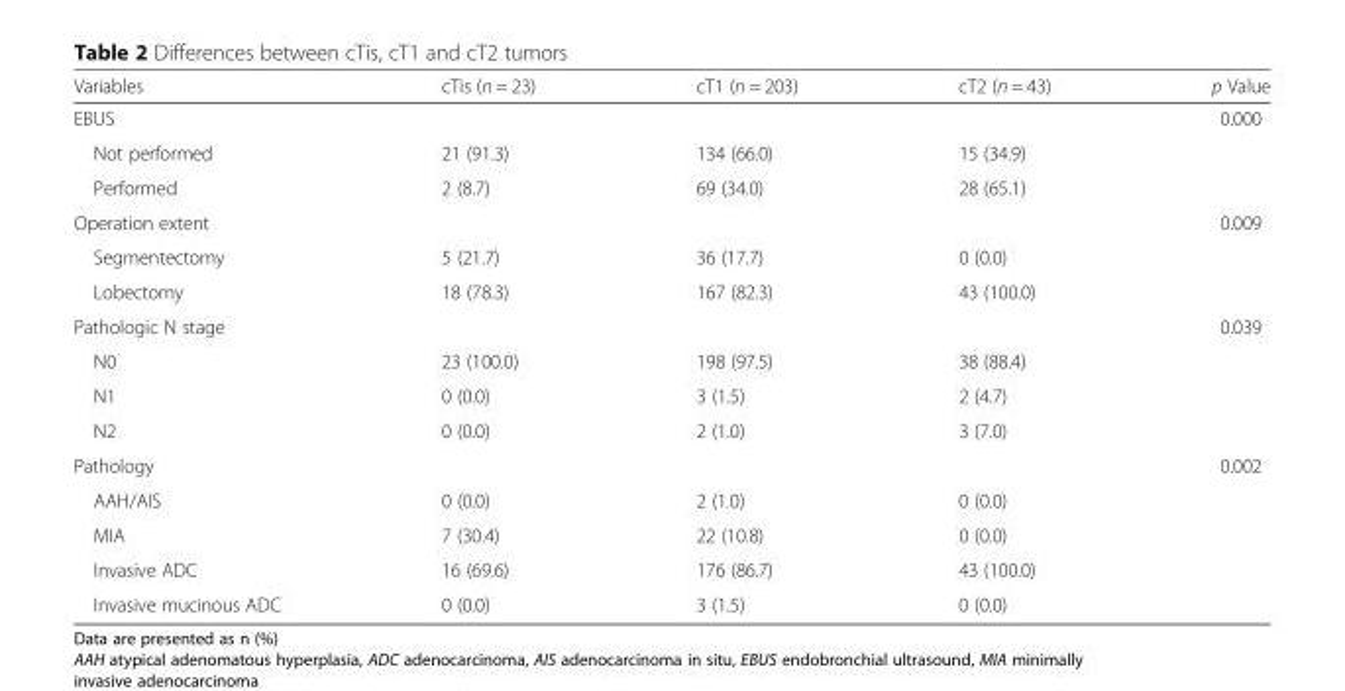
<table><thead><tr><td>Variables</td><td>cTis (n = 23)</td><td>cT1 (n = 203)</td><td>cT2 (n = 43)</td><td>p Value</td></tr></thead><tbody><tr><td>EBUS</td><td></td><td></td><td></td><td>0.000</td></tr><tr><td>Not performed</td><td>21 (91.3)</td><td>134 (66.0)</td><td>15 (34.9)</td><td rowspan="2"></td></tr><tr><td>Performed</td><td>2 (8.7)</td><td>69 (34.0)</td><td>28 (65.1)</td></tr><tr><td>Operation extent</td><td></td><td></td><td></td><td>0.009</td></tr><tr><td>Segmentectomy</td><td>5 (21.7)</td><td>36 (17.7)</td><td>0 (0.0)</td><td rowspan="2"></td></tr><tr><td>Lobectomy</td><td>18 (78.3)</td><td>167 (82.3)</td><td>43 (100.0)</td></tr><tr><td>Pathologic N stage</td><td></td><td></td><td></td><td>0.039</td></tr><tr><td>N0</td><td>23 (100.0)</td><td>198 (97.5)</td><td>38 (88.4)</td><td rowspan="3"></td></tr><tr><td>N1</td><td>0 (0.0)</td><td>3 (1.5)</td><td>2 (4.7)</td></tr><tr><td>N2</td><td>0 (0.0)</td><td>2 (1.0)</td><td>3 (7.0)</td></tr><tr><td>Pathology</td><td></td><td></td><td></td><td>0.002</td></tr><tr><td>AAH/AIS</td><td>0 (0.0)</td><td>2 (1.0)</td><td>0 (0.0)</td><td rowspan="4"></td></tr><tr><td>MIA</td><td>7 (30.4)</td><td>22 (10.8)</td><td>0 (0.0)</td></tr><tr><td>Invasive ADC</td><td>16 (69.6)</td><td>176 (86.7)</td><td>43 (100.0)</td></tr><tr><td>Invasive mucinous ADC</td><td>0 (0.0)</td><td>3 (1.5)</td><td>0 (0.0)</td></tr></tbody></table>